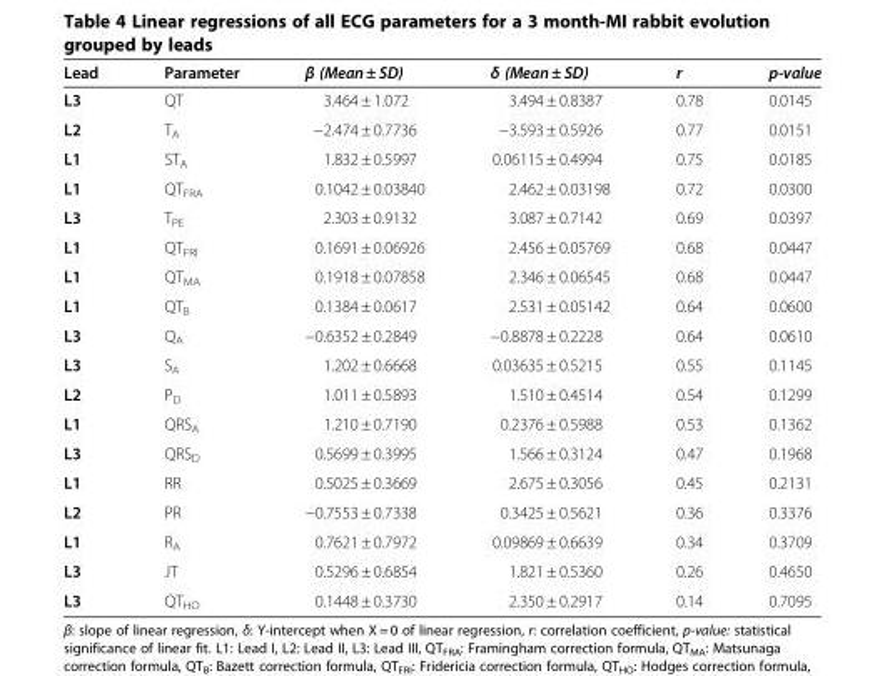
<table><thead><tr><td>Lead</td><td>Parameter</td><td>β (Mean ± SD)</td><td>δ (Mean ± SD)</td><td>r</td><td>p-value</td></tr></thead><tbody><tr><td>L3</td><td>QT</td><td>3.464 ± 1.072</td><td>3.494 ± 0.8387</td><td>0.78</td><td>0.0145</td></tr><tr><td>L2</td><td>T<sub>A</sub></td><td>−2.474 ± 0.7736</td><td>−3.593 ± 0.5926</td><td>0.77</td><td>0.0151</td></tr><tr><td>L1</td><td>ST<sub>A</sub></td><td>1.832 ± 0.5997</td><td>0.06115 ± 0.4994</td><td>0.75</td><td>0.0185</td></tr><tr><td>L1</td><td>QT<sub>FRA</sub></td><td>0.1042 ± 0.03840</td><td>2.462 ± 0.03198</td><td>0.72</td><td>0.0300</td></tr><tr><td>L3</td><td>T<sub>PE</sub></td><td>2.303 ± 0.9132</td><td>3.087 ± 0.7142</td><td>0.69</td><td>0.0397</td></tr><tr><td>L1</td><td>QT<sub>FRI</sub></td><td>0.1691 ± 0.06926</td><td>2.456 ± 0.05769</td><td>0.68</td><td>0.0447</td></tr><tr><td>L1</td><td>QT<sub>MA</sub></td><td>0.1918 ± 0.07858</td><td>2.346 ± 0.06545</td><td>0.68</td><td>0.0447</td></tr><tr><td>L1</td><td>QT<sub>B</sub></td><td>0.1384 ± 0.0617</td><td>2.531 ± 0.05142</td><td>0.64</td><td>0.0600</td></tr><tr><td>L3</td><td>Q<sub>A</sub></td><td>−0.6352 ± 0.2849</td><td>−0.8878 ± 0.2228</td><td>0.64</td><td>0.0610</td></tr><tr><td>L3</td><td>S<sub>A</sub></td><td>1.202 ± 0.6668</td><td>0.03635 ± 0.5215</td><td>0.55</td><td>0.1145</td></tr><tr><td>L2</td><td>P<sub>D</sub></td><td>1.011 ± 0.5893</td><td>1.510 ± 0.4514</td><td>0.54</td><td>0.1299</td></tr><tr><td>L1</td><td>QRS<sub>A</sub></td><td>1.210 ± 0.7190</td><td>0.2376 ± 0.5988</td><td>0.53</td><td>0.1362</td></tr><tr><td>L3</td><td>QRS<sub>D</sub></td><td>0.5699 ± 0.3995</td><td>1.566 ± 0.3124</td><td>0.47</td><td>0.1968</td></tr><tr><td>L1</td><td>RR</td><td>0.5025 ± 0.3669</td><td>2.675 ± 0.3056</td><td>0.45</td><td>0.2131</td></tr><tr><td>L2</td><td>PR</td><td>−0.7553 ± 0.7338</td><td>0.3425 ± 0.5621</td><td>0.36</td><td>0.3376</td></tr><tr><td>L1</td><td>R<sub>A</sub></td><td>0.7621 ± 0.7972</td><td>0.09869 ± 0.6639</td><td>0.34</td><td>0.3709</td></tr><tr><td>L3</td><td>JT</td><td>0.5296 ± 0.6854</td><td>1.821 ± 0.5360</td><td>0.26</td><td>0.4650</td></tr><tr><td>L3</td><td>QT<sub>HO</sub></td><td>0.1448 ± 0.3730</td><td>2.350 ± 0.2917</td><td>0.14</td><td>0.7095</td></tr></tbody></table>